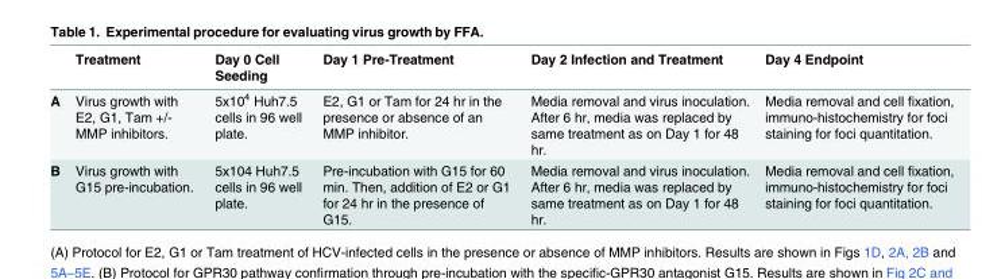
<table><thead><tr><td></td><td>Treatment</td><td>Day 0 Cell Seeding</td><td>Day 1 Pre-Treatment</td><td>Day 2 Infection and Treatment</td><td>Day 4 Endpoint</td></tr></thead><tbody><tr><td>A</td><td>Virus growth with E2, G1, Tam +/- MMP inhibitors.</td><td>5x10<sup>4</sup> Huh7.5 cells in 96 well plate.</td><td>E2, G1 or Tam for 24 hr in the presence or absence of an MMP inhibitor.</td><td>Media removal and virus inoculation. After 6 hr, media was replaced by same treatment as on Day 1 for 48 hr.</td><td>Media removal and cell fixation, immuno-histochemistry for foci staining for foci quantitation.</td></tr><tr><td>B</td><td>Virus growth with G15 pre-incubation.</td><td>5x104 Huh7.5 cells in 96 well plate.</td><td>Pre-incubation with G15 for 60 min. Then, addition of E2 or G1 for 24 hr in the presence of G15.</td><td>Media removal and virus inoculation. After 6 hr, media was replaced by same treatment as on Day 1 for 48 hr.</td><td>Media removal and cell fixation, immuno-histochemistry for foci staining for foci quantitation.</td></tr></tbody></table>